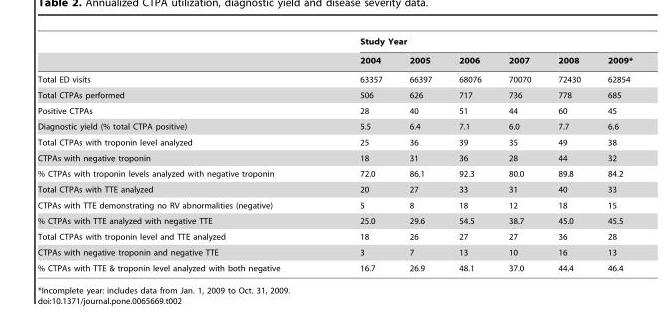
<table><thead><tr><td rowspan="2"></td><td colspan="6">Study Year</td></tr><tr><td>2004</td><td>2005</td><td>2006</td><td>2007</td><td>2008</td><td>2009*</td></tr></thead><tbody><tr><td>Total ED visits</td><td>63357</td><td>66397</td><td>68076</td><td>70070</td><td>72430</td><td>62854</td></tr><tr><td>Total CTPAs performed</td><td>506</td><td>626</td><td>717</td><td>736</td><td>778</td><td>685</td></tr><tr><td>Positive CTPAs</td><td>28</td><td>40</td><td>51</td><td>44</td><td>60</td><td>45</td></tr><tr><td>Diagnostic yield (% total CTPA positive)</td><td>5.5</td><td>6.4</td><td>7.1</td><td>6.0</td><td>7.7</td><td>6.6</td></tr><tr><td>Total CTPAs with troponin level analyzed</td><td>25</td><td>36</td><td>39</td><td>35</td><td>49</td><td>38</td></tr><tr><td>CTPAs with negative troponin</td><td>18</td><td>31</td><td>36</td><td>28</td><td>44</td><td>32</td></tr><tr><td>% CTPAs with troponin levels analyzed with negative troponin</td><td>72.0</td><td>86.1</td><td>92.3</td><td>80.0</td><td>89.8</td><td>84.2</td></tr><tr><td>Total CTPAs with TTE analyzed</td><td>20</td><td>27</td><td>33</td><td>31</td><td>40</td><td>33</td></tr><tr><td>CTPAs with TTE demonstrating no RV abnormalities (negative)</td><td>5</td><td>8</td><td>18</td><td>12</td><td>18</td><td>15</td></tr><tr><td>% CTPAs with TTE analyzed with negative TTE</td><td>25.0</td><td>29.6</td><td>54.5</td><td>38.7</td><td>45.0</td><td>45.5</td></tr><tr><td>Total CTPAs with troponin level and TTE analyzed</td><td>18</td><td>26</td><td>27</td><td>27</td><td>36</td><td>28</td></tr><tr><td>CTPAs with negative troponin and negative TTE</td><td>3</td><td>7</td><td>13</td><td>10</td><td>16</td><td>13</td></tr><tr><td>% CTPAs with TTE &amp; troponin level analyzed with both negative</td><td>16.7</td><td>26.9</td><td>48.1</td><td>37.0</td><td>44.4</td><td>46.4</td></tr></tbody></table>